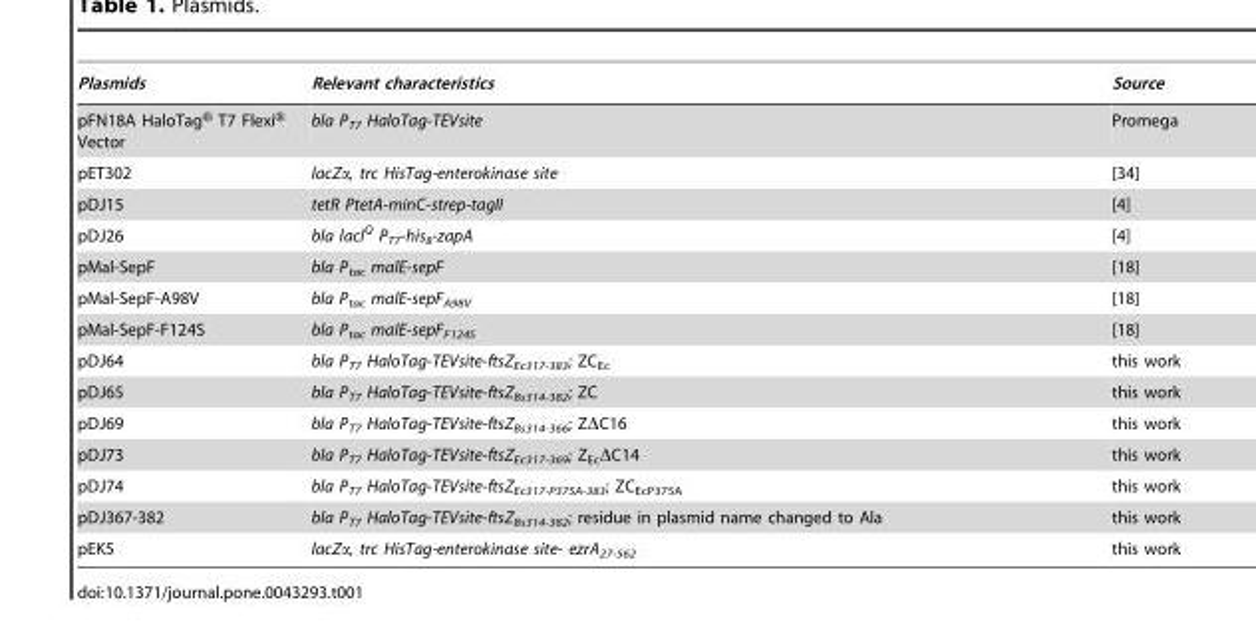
<table><thead><tr><td>Plasmids</td><td>Relevant characteristics</td><td>Source</td></tr></thead><tbody><tr><td>pFN18A HaloTag® T7 Flexi® Vector</td><td>bla P<sub>T7</sub> HaloTag-TEVsite</td><td>Promega</td></tr><tr><td>pET302</td><td>lacZα, trc HisTag-enterokinase site</td><td>[34]</td></tr><tr><td>pDJ15</td><td>tetR PtetA-minC-strep-tagII</td><td>[4]</td></tr><tr><td>pDJ26</td><td>bla lacI<sup>Q</sup> P<sub>T7</sub>-his<sub>8</sub>-zapA</td><td>[4]</td></tr><tr><td>pMal-SepF</td><td>bla P<sub>tac</sub> malE-sepF</td><td>[18]</td></tr><tr><td>pMal-SepF-A98V</td><td>bla P<sub>tac</sub> malE-sepF<sub>A98V</sub></td><td>[18]</td></tr><tr><td>pMal-SepF-F124S</td><td>bla P<sub>tac</sub> malE-sepF<sub>F124S</sub></td><td>[18]</td></tr><tr><td>pDJ64</td><td>bla P<sub>T7</sub> HaloTag-TEVsite-ftsZ<sub>Ec317-383</sub>; ZC<sub>Ec</sub></td><td>this work</td></tr><tr><td>pDJ65</td><td>bla P<sub>T7</sub> HaloTag-TEVsite-ftsZ<sub>Bs314-382</sub>; ZC</td><td>this work</td></tr><tr><td>pDJ69</td><td>bla P<sub>T7</sub> HaloTag-TEVsite-ftsZ<sub>Bs314-366</sub>; ZΔC16</td><td>this work</td></tr><tr><td>pDJ73</td><td>bla P<sub>T7</sub> HaloTag-TEVsite-ftsZ<sub>Ec317-369</sub>; Z<sub>Ec</sub>ΔC14</td><td>this work</td></tr><tr><td>pDJ74</td><td>bla P<sub>T7</sub> HaloTag-TEVsite-ftsZ<sub>Ec317-P375A-383</sub>; ZC<sub>EcP375A</sub></td><td>this work</td></tr><tr><td>pDJ367-382</td><td>bla P<sub>T7</sub> HaloTag-TEVsite-ftsZ<sub>Bs314-382</sub>; residue in plasmid name changed to Ala</td><td>this work</td></tr><tr><td>pEK5</td><td>lacZα, trc HisTag-enterokinase site- ezrA<sub>27-562</sub></td><td>this work</td></tr></tbody></table>